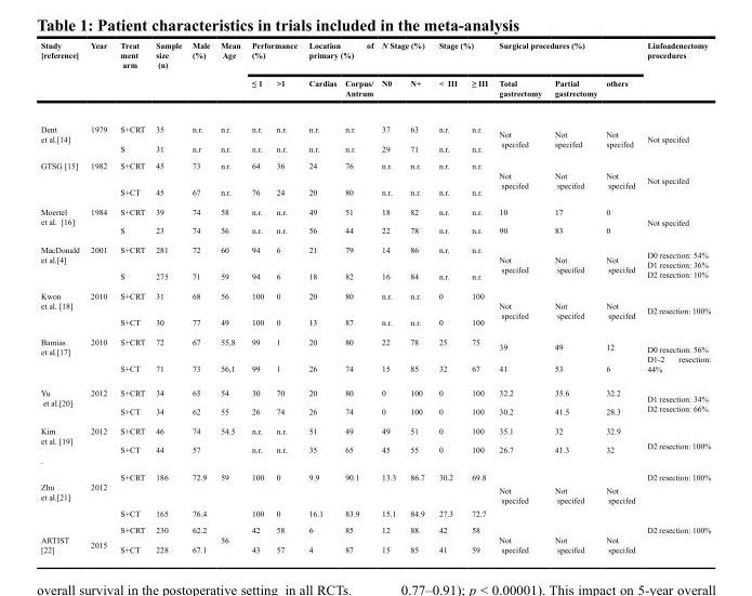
<table><thead><tr><td rowspan="2">Study [reference]</td><td rowspan="2">Year</td><td rowspan="2">Treat ment arm</td><td rowspan="2">Sample size (n)</td><td rowspan="2">Male (%)</td><td rowspan="2">Mean Age</td><td colspan="2">Performance (%)</td><td colspan="2">Location of primary (%)</td><td colspan="2">N Stage (%)</td><td colspan="2">Stage (%)</td><td colspan="3">Surgical procedures (%)</td><td rowspan="2">Linfoadenectomy procedures</td></tr><tr><td>≤ 1</td><td>&gt;1</td><td>Cardias</td><td>Corpus/ Antrum</td><td>N0</td><td>N+</td><td>&lt; III</td><td>≥ III</td><td>Total gastrectomy</td><td>Partial gastrectomy</td><td>others</td></tr></thead><tbody><tr><td>Dent et al.[14]</td><td>1979</td><td>S+CRT S</td><td>35 31</td><td>n.r. n.r</td><td>n.r. n.r.</td><td>n.r. n.r.</td><td>n.r. n.r.</td><td>n.r. n.r.</td><td>n.r. n.r.</td><td>37 29</td><td>63 71</td><td>n.r. n.r.</td><td>n.r. n.r.</td><td>Not specifed</td><td>Not specifed</td><td>Not specifed</td><td>Not specifed</td></tr><tr><td rowspan="2">GTSG [15]</td><td rowspan="2">1982</td><td>S+CRT</td><td>45</td><td>73</td><td>n.r.</td><td>64</td><td>36</td><td>24</td><td>76</td><td>n.r.</td><td>n.r.</td><td>n.r.</td><td>n.r.</td><td rowspan="2">Not specifed</td><td rowspan="2">Not specifed</td><td rowspan="2">Not specifed</td><td rowspan="2">Not specifed</td></tr><tr><td>S+CT</td><td>45</td><td>67</td><td>n.r.</td><td>76</td><td>24</td><td>20</td><td>80</td><td>n.r.</td><td>n.r.</td><td>n.r.</td><td>n.r.</td></tr><tr><td rowspan="2">Moertel et al. [16]</td><td rowspan="2">1984</td><td>S+CRT</td><td>39</td><td>74</td><td>58</td><td>n.r.</td><td>n.r.</td><td>49</td><td>51</td><td>18</td><td>82</td><td>n.r.</td><td>n.r.</td><td>10</td><td>17</td><td>0</td><td rowspan="2">Not specifed</td></tr><tr><td>S</td><td>23</td><td>74</td><td>56</td><td>n.r.</td><td>n.r.</td><td>56</td><td>44</td><td>22</td><td>78</td><td>n.r.</td><td>n.r.</td><td>90</td><td>83</td><td>0</td></tr><tr><td rowspan="2">MacDonald et al.[4]</td><td rowspan="2">2001</td><td>S+CRT</td><td>281</td><td>72</td><td>60</td><td>94</td><td>6</td><td>21</td><td>79</td><td>14</td><td>86</td><td>n.r.</td><td>n.r.</td><td rowspan="2">Not specifed</td><td rowspan="2">Not specifed</td><td rowspan="2">Not specifed</td><td rowspan="2">D0 resection: 54% D1 resection: 36% D2 resection: 10%</td></tr><tr><td>S</td><td>275</td><td>71</td><td>59</td><td>94</td><td>6</td><td>18</td><td>82</td><td>16</td><td>84</td><td>n.r.</td><td>n.r.</td></tr><tr><td rowspan="2">Kwon et al. [18]</td><td rowspan="2">2010</td><td>S+CRT</td><td>31</td><td>68</td><td>56</td><td>100</td><td>0</td><td>20</td><td>80</td><td>n.r.</td><td>n.r.</td><td>0</td><td>100</td><td rowspan="2">Not specifed</td><td rowspan="2">Not specifed</td><td rowspan="2">Not specifed</td><td rowspan="2">D2 resection: 100%</td></tr><tr><td>S+CT</td><td>30</td><td>77</td><td>49</td><td>100</td><td>0</td><td>13</td><td>87</td><td>n.r.</td><td>n.r.</td><td>0</td><td>100</td></tr><tr><td rowspan="2">Bamias et al.[17]</td><td rowspan="2">2010</td><td>S+CRT</td><td>72</td><td>67</td><td>55,8</td><td>99</td><td>1</td><td>20</td><td>80</td><td>22</td><td>78</td><td>25</td><td>75</td><td>39</td><td>49</td><td>12</td><td rowspan="2">D0 resection: 56% D1-2 resection: 44%</td></tr><tr><td>S+CT</td><td>71</td><td>73</td><td>56,1</td><td>99</td><td>1</td><td>26</td><td>74</td><td>15</td><td>85</td><td>32</td><td>67</td><td>41</td><td>53</td><td>6</td></tr><tr><td rowspan="2">Yu et al.[20]</td><td rowspan="2">2012</td><td>S+CRT</td><td>34</td><td>65</td><td>54</td><td>30</td><td>70</td><td>20</td><td>80</td><td>0</td><td>100</td><td>0</td><td>100</td><td>32.2</td><td>35.6</td><td>32.2</td><td rowspan="2">D1 resection: 34% D2 resection: 66%</td></tr><tr><td>S+CT</td><td>34</td><td>62</td><td>55</td><td>26</td><td>74</td><td>26</td><td>74</td><td>0</td><td>100</td><td>0</td><td>100</td><td>30.2</td><td>41.5</td><td>28.3</td></tr><tr><td rowspan="2">Kim et al. [19] .</td><td rowspan="2">2012</td><td>S+CRT</td><td>46</td><td>74</td><td rowspan="2">54.5</td><td>n.r.</td><td>n.r.</td><td>51</td><td>49</td><td>49</td><td>51</td><td>0</td><td>100</td><td>35.1</td><td>32</td><td>32.9</td><td rowspan="2">D2 resection: 100%</td></tr><tr><td>S+CT</td><td>44</td><td>57</td><td>n.r.</td><td>n.r.</td><td>35</td><td>65</td><td>45</td><td>55</td><td>0</td><td>100</td><td>26.7</td><td>41.3</td><td>32</td></tr><tr><td rowspan="2">Zhu et al.[21]</td><td>2012</td><td>S+CRT</td><td>186</td><td>72.9</td><td rowspan="2">59</td><td>100</td><td>0</td><td>9.9</td><td>90.1</td><td>13.3</td><td>86.7</td><td>30.2</td><td>69.8</td><td rowspan="2">Not specifed</td><td rowspan="2">Not specifed</td><td rowspan="2">Not specifed</td><td>D2 resection: 100%</td></tr><tr><td></td><td>S+CT</td><td>165</td><td>76.4</td><td>100</td><td>0</td><td>16.1</td><td>83.9</td><td>15.1</td><td>84.9</td><td>27.3</td><td>72.7</td><td></td></tr><tr><td>ARTIST [22]</td><td>2015</td><td>S+CRT S+CT</td><td>230 228</td><td>62.2 67.1</td><td>56</td><td>42 43</td><td>58 57</td><td>6 4</td><td>85 87</td><td>12 15</td><td>88 85</td><td>42 41</td><td>58 59</td><td>Not specifed</td><td>Not specifed</td><td>Not specifed</td><td>D2 resection: 100%</td></tr></tbody></table>